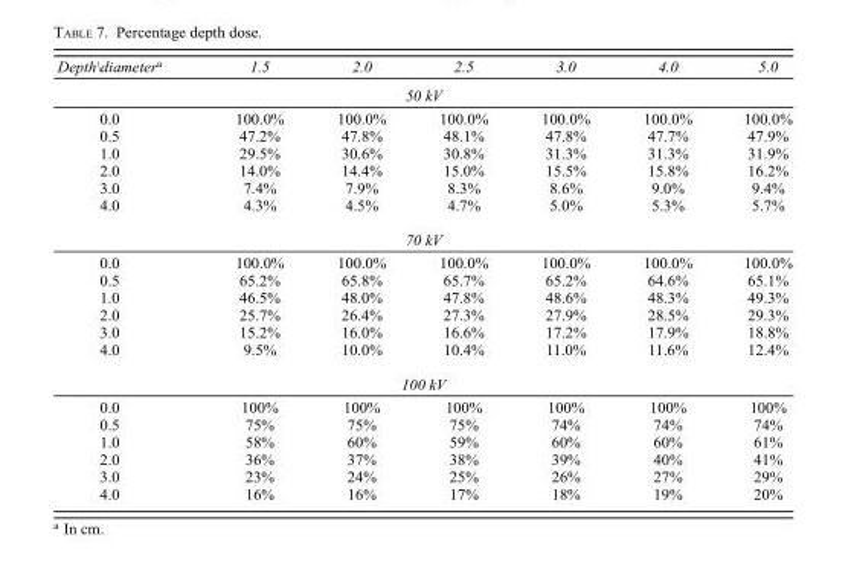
<table><thead><tr><td>Depth\diameter<sup>a</sup></td><td>1.5</td><td>2.0</td><td>2.5</td><td>3.0</td><td>4.0</td><td>5.0</td></tr></thead><tbody><tr><td colspan="7">50 kV</td></tr><tr><td>0.0</td><td>100.0%</td><td>100.0%</td><td>100.0%</td><td>100.0%</td><td>100.0%</td><td>100.0%</td></tr><tr><td>0.5</td><td>47.2%</td><td>47.8%</td><td>48.1%</td><td>47.8%</td><td>47.7%</td><td>47.9%</td></tr><tr><td>1.0</td><td>29.5%</td><td>30.6%</td><td>30.8%</td><td>31.3%</td><td>31.3%</td><td>31.9%</td></tr><tr><td>2.0</td><td>14.0%</td><td>14.4%</td><td>15.0%</td><td>15.5%</td><td>15.8%</td><td>16.2%</td></tr><tr><td>3.0</td><td>7.4%</td><td>7.9%</td><td>8.3%</td><td>8.6%</td><td>9.0%</td><td>9.4%</td></tr><tr><td>4.0</td><td>4.3%</td><td>4.5%</td><td>4.7%</td><td>5.0%</td><td>5.3%</td><td>5.7%</td></tr><tr><td colspan="7">70 kV</td></tr><tr><td>0.0</td><td>100.0%</td><td>100.0%</td><td>100.0%</td><td>100.0%</td><td>100.0%</td><td>100.0%</td></tr><tr><td>0.5</td><td>65.2%</td><td>65.8%</td><td>65.7%</td><td>65.2%</td><td>64.6%</td><td>65.1%</td></tr><tr><td>1.0</td><td>46.5%</td><td>48.0%</td><td>47.8%</td><td>48.6%</td><td>48.3%</td><td>49.3%</td></tr><tr><td>2.0</td><td>25.7%</td><td>26.4%</td><td>27.3%</td><td>27.9%</td><td>28.5%</td><td>29.3%</td></tr><tr><td>3.0</td><td>15.2%</td><td>16.0%</td><td>16.6%</td><td>17.2%</td><td>17.9%</td><td>18.8%</td></tr><tr><td>4.0</td><td>9.5%</td><td>10.0%</td><td>10.4%</td><td>11.0%</td><td>11.6%</td><td>12.4%</td></tr><tr><td colspan="7">100 kV</td></tr><tr><td>0.0</td><td>100%</td><td>100%</td><td>100%</td><td>100%</td><td>100%</td><td>100%</td></tr><tr><td>0.5</td><td>75%</td><td>75%</td><td>75%</td><td>74%</td><td>74%</td><td>74%</td></tr><tr><td>1.0</td><td>58%</td><td>60%</td><td>59%</td><td>60%</td><td>60%</td><td>61%</td></tr><tr><td>2.0</td><td>36%</td><td>37%</td><td>38%</td><td>39%</td><td>40%</td><td>41%</td></tr><tr><td>3.0</td><td>23%</td><td>24%</td><td>25%</td><td>26%</td><td>27%</td><td>29%</td></tr><tr><td>4.0</td><td>16%</td><td>16%</td><td>17%</td><td>18%</td><td>19%</td><td>20%</td></tr></tbody></table>